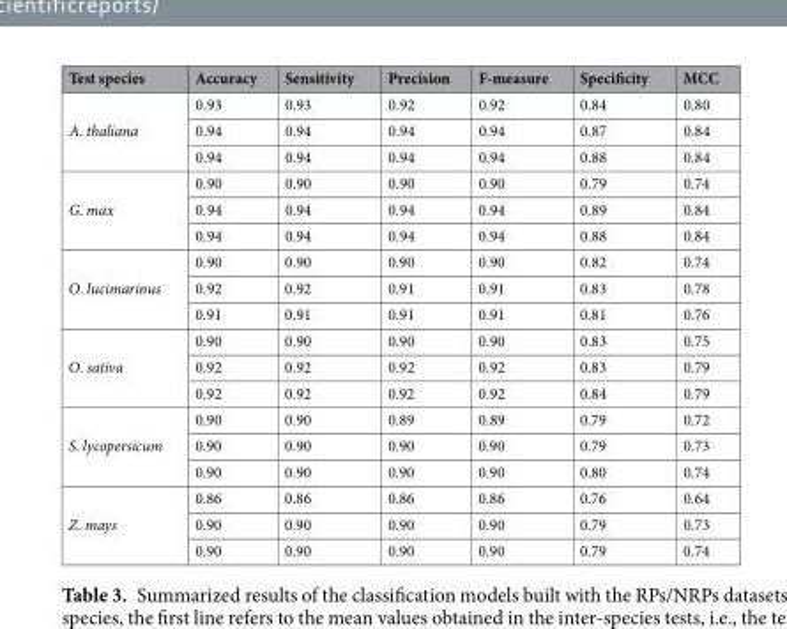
<table><thead><tr><td>Test species</td><td>Accuracy</td><td>Sensitivity</td><td>Precision</td><td>F-measure</td><td>Specificity</td><td>MCC</td></tr></thead><tbody><tr><td rowspan="3">A. thaliana</td><td>0.93</td><td>0.93</td><td>0.92</td><td>0.92</td><td>0.84</td><td>0.80</td></tr><tr><td>0.94</td><td>0.94</td><td>0.94</td><td>0.94</td><td>0.87</td><td>0.84</td></tr><tr><td>0.94</td><td>0.94</td><td>0.94</td><td>0.94</td><td>0.88</td><td>0.84</td></tr><tr><td rowspan="3">G. max</td><td>0.90</td><td>0.90</td><td>0.90</td><td>0.90</td><td>0.79</td><td>0.74</td></tr><tr><td>0.94</td><td>0.94</td><td>0.94</td><td>0.94</td><td>0.89</td><td>0.84</td></tr><tr><td>0.94</td><td>0.94</td><td>0.94</td><td>0.94</td><td>0.88</td><td>0.84</td></tr><tr><td rowspan="3">O. lucimarinus</td><td>0.90</td><td>0.90</td><td>0.90</td><td>0.90</td><td>0.82</td><td>0.74</td></tr><tr><td>0.92</td><td>0.92</td><td>0.91</td><td>0.91</td><td>0.83</td><td>0.78</td></tr><tr><td>0.91</td><td>0.91</td><td>0.91</td><td>0.91</td><td>0.81</td><td>0.76</td></tr><tr><td rowspan="3">O. sativa</td><td>0.90</td><td>0.90</td><td>0.90</td><td>0.90</td><td>0.83</td><td>0.75</td></tr><tr><td>0.92</td><td>0.92</td><td>0.92</td><td>0.92</td><td>0.83</td><td>0.79</td></tr><tr><td>0.92</td><td>0.92</td><td>0.92</td><td>0.92</td><td>0.84</td><td>0.79</td></tr><tr><td rowspan="3">S. lycopersicum</td><td>0.90</td><td>0.90</td><td>0.89</td><td>0.89</td><td>0.79</td><td>0.72</td></tr><tr><td>0.90</td><td>0.90</td><td>0.90</td><td>0.90</td><td>0.79</td><td>0.73</td></tr><tr><td>0.90</td><td>0.90</td><td>0.90</td><td>0.90</td><td>0.80</td><td>0.74</td></tr><tr><td rowspan="3">Z. mays</td><td>0.86</td><td>0.86</td><td>0.86</td><td>0.86</td><td>0.76</td><td>0.64</td></tr><tr><td>0.90</td><td>0.90</td><td>0.90</td><td>0.90</td><td>0.79</td><td>0.73</td></tr><tr><td>0.90</td><td>0.90</td><td>0.90</td><td>0.90</td><td>0.79</td><td>0.74</td></tr></tbody></table>